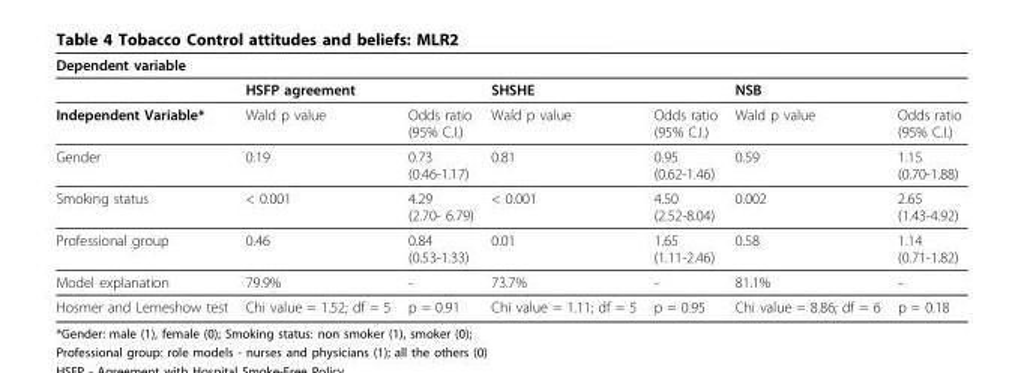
<table><thead><tr><td>Dependent variable</td><td></td><td></td><td></td><td></td><td></td><td></td></tr></thead><tbody><tr><td></td><td>HSFP agreement</td><td></td><td>SHSHE</td><td></td><td>NSB</td><td></td></tr><tr><td>Independent Variable*</td><td>Wald p value</td><td>Odds ratio (95% C.I.)</td><td>Wald p value</td><td>Odds ratio (95% C.I.)</td><td>Wald p value</td><td>Odds ratio (95% C.I.)</td></tr><tr><td>Gender</td><td>0.19</td><td>0.73 (0.46-1.17)</td><td>0.81</td><td>0.95 (0.62-1.46)</td><td>0.59</td><td>1.15 (0.70-1.88)</td></tr><tr><td>Smoking status</td><td>&lt; 0.001</td><td>4.29 (2.70- 6.79)</td><td>&lt; 0.001</td><td>4.50 (2.52-8.04)</td><td>0.002</td><td>2.65 (1.43-4.92)</td></tr><tr><td>Professional group</td><td>0.46</td><td>0.84 (0.53-1.33)</td><td>0.01</td><td>1.65 (1.11-2.46)</td><td>0.58</td><td>1.14 (0.71-1.82)</td></tr><tr><td>Model explanation</td><td>79.9%</td><td>-</td><td>73.7%</td><td>-</td><td>81.1%</td><td>-</td></tr><tr><td>Hosmer and Lemeshow test</td><td>Chi value = 1.52; df = 5</td><td>p = 0.91</td><td>Chi value = 1.11; df = 5</td><td>p = 0.95</td><td>Chi value = 8.86; df = 6</td><td>p = 0.18</td></tr></tbody></table>